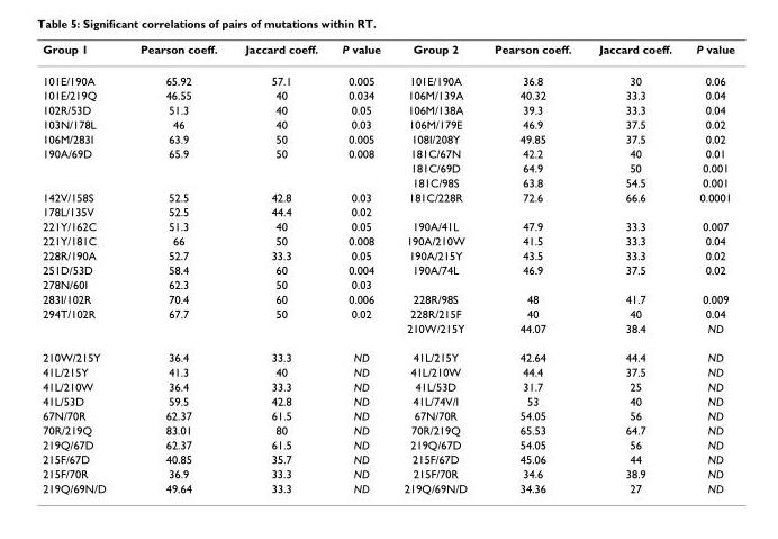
<table><thead><tr><td>Group 1</td><td>Pearson coeff.</td><td>Jaccard coeff.</td><td>P value</td><td>Group 2</td><td>Pearson coeff.</td><td>Jaccard coeff.</td><td>P value</td></tr></thead><tbody><tr><td>101E/190A</td><td>65.92</td><td>57.1</td><td>0.005</td><td>101E/190A</td><td>36.8</td><td>30</td><td>0.06</td></tr><tr><td>101E/219Q</td><td>46.55</td><td>40</td><td>0.034</td><td>106M/139A</td><td>40.32</td><td>33.3</td><td>0.04</td></tr><tr><td>102R/53D</td><td>51.3</td><td>40</td><td>0.05</td><td>106M/138A</td><td>39.3</td><td>33.3</td><td>0.04</td></tr><tr><td>103N/178L</td><td>46</td><td>40</td><td>0.03</td><td>106M/179E</td><td>46.9</td><td>37.5</td><td>0.02</td></tr><tr><td>106M/283I</td><td>63.9</td><td>50</td><td>0.005</td><td>108I/208Y</td><td>49.85</td><td>37.5</td><td>0.02</td></tr><tr><td rowspan="3">190A/69D</td><td>65.9</td><td>50</td><td>0.008</td><td>181C/67N</td><td>42.2</td><td>40</td><td>0.01</td></tr><tr><td></td><td></td><td></td><td>181C/69D</td><td>64.9</td><td>50</td><td>0.001</td></tr><tr><td></td><td></td><td></td><td>181C/98S</td><td>63.8</td><td>54.5</td><td>0.001</td></tr><tr><td>142V/158S</td><td>52.5</td><td>42.8</td><td>0.03</td><td>181C/228R</td><td>72.6</td><td>66.6</td><td>0.0001</td></tr><tr><td>178L/135V</td><td>52.5</td><td>44.4</td><td>0.02</td><td></td><td></td><td></td><td></td></tr><tr><td>221Y/162C</td><td>51.3</td><td>40</td><td>0.05</td><td>190A/41L</td><td>47.9</td><td>33.3</td><td>0.007</td></tr><tr><td>221Y/181C</td><td>66</td><td>50</td><td>0.008</td><td>190A/210W</td><td>41.5</td><td>33.3</td><td>0.04</td></tr><tr><td>228R/190A</td><td>52.7</td><td>33.3</td><td>0.05</td><td>190A/215Y</td><td>43.5</td><td>33.3</td><td>0.02</td></tr><tr><td>251D/53D</td><td>58.4</td><td>60</td><td>0.004</td><td>190A/74L</td><td>46.9</td><td>37.5</td><td>0.02</td></tr><tr><td>278N/60I</td><td>62.3</td><td>50</td><td>0.03</td><td></td><td></td><td></td><td></td></tr><tr><td>283I/102R</td><td>70.4</td><td>60</td><td>0.006</td><td>228R/98S</td><td>48</td><td>41.7</td><td>0.009</td></tr><tr><td rowspan="2">294T/102R</td><td>67.7</td><td>50</td><td>0.02</td><td>228R/215F</td><td>40</td><td>40</td><td>0.04</td></tr><tr><td></td><td></td><td></td><td>210W/215Y</td><td>44.07</td><td>38.4</td><td>ND</td></tr><tr><td>210W/215Y</td><td>36.4</td><td>33.3</td><td>ND</td><td>41L/215Y</td><td>42.64</td><td>44.4</td><td>ND</td></tr><tr><td>41L/215Y</td><td>41.3</td><td>40</td><td>ND</td><td>41L/210W</td><td>44.4</td><td>37.5</td><td>ND</td></tr><tr><td>41L/210W</td><td>36.4</td><td>33.3</td><td>ND</td><td>41L/53D</td><td>31.7</td><td>25</td><td>ND</td></tr><tr><td>41L/53D</td><td>59.5</td><td>42.8</td><td>ND</td><td>41L/74V/I</td><td>53</td><td>40</td><td>ND</td></tr><tr><td>67N/70R</td><td>62.37</td><td>61.5</td><td>ND</td><td>67N/70R</td><td>54.05</td><td>56</td><td>ND</td></tr><tr><td>70R/219Q</td><td>83.01</td><td>80</td><td>ND</td><td>70R/219Q</td><td>65.53</td><td>64.7</td><td>ND</td></tr><tr><td>219Q/67D</td><td>62.37</td><td>61.5</td><td>ND</td><td>219Q/67D</td><td>54.05</td><td>56</td><td>ND</td></tr><tr><td>215F/67D</td><td>40.85</td><td>35.7</td><td>ND</td><td>215F/67D</td><td>45.06</td><td>44</td><td>ND</td></tr><tr><td>215F/70R</td><td>36.9</td><td>33.3</td><td>ND</td><td>215F/70R</td><td>34.6</td><td>38.9</td><td>ND</td></tr><tr><td>219Q/69N/D</td><td>49.64</td><td>33.3</td><td>ND</td><td>219Q/69N/D</td><td>34.36</td><td>27</td><td>ND</td></tr></tbody></table>